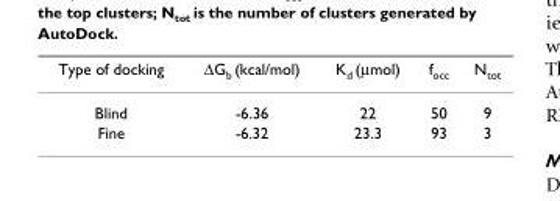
<table><thead><tr><td>Type of docking</td><td>∆Gb (kcal/mol)</td><td>K<sub>d</sub> (µmol)</td><td>f<sub>occ</sub></td><td>N<sub>tot</sub></td></tr></thead><tbody><tr><td>Blind</td><td>-6.36</td><td>22</td><td>50</td><td>9</td></tr><tr><td>Fine</td><td>-6.32</td><td>23.3</td><td>93</td><td>3</td></tr></tbody></table>